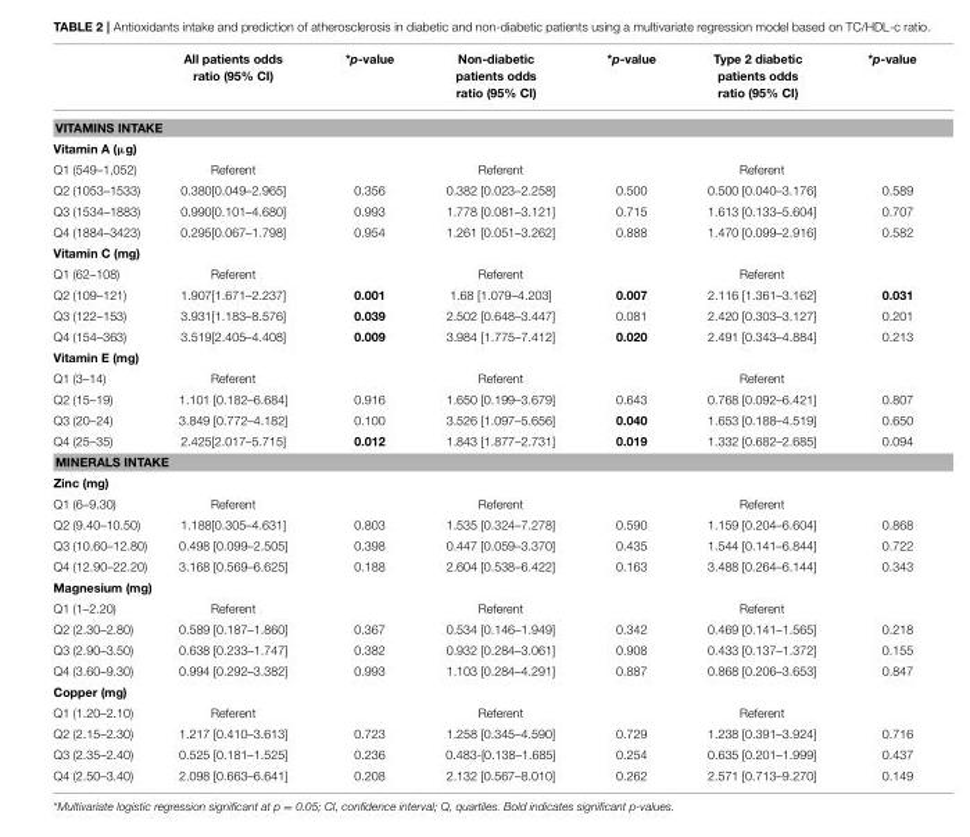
<table><thead><tr><td></td><td>All patients odds ratio (95% CI)</td><td>*p-value</td><td>Non-diabetic patients odds ratio (95% CI)</td><td>*p-value</td><td>Type 2 diabetic patients odds ratio (95% CI)</td><td>*p-value</td></tr></thead><tbody><tr><td colspan="7">VITAMINS INTAKE</td></tr><tr><td colspan="7">Vitamin A (µg)</td></tr><tr><td>Q1 (549–1,052)</td><td>Referent</td><td></td><td>Referent</td><td></td><td>Referent</td><td></td></tr><tr><td>Q2 (1053–1533)</td><td>0.380[0.049–2.965]</td><td>0.356</td><td>0.382 [0.023–2.258]</td><td>0.500</td><td>0.500 [0.040–3.176]</td><td>0.589</td></tr><tr><td>Q3 (1534–1883)</td><td>0.990[0.101–4.680]</td><td>0.993</td><td>1.778 [0.081–3.121]</td><td>0.715</td><td>1.613 [0.133–5.604]</td><td>0.707</td></tr><tr><td>Q4 (1884–3423)</td><td>0.295[0.067–1.798]</td><td>0.954</td><td>1.261 [0.051–3.262]</td><td>0.888</td><td>1.470 [0.099–2.916]</td><td>0.582</td></tr><tr><td colspan="7">Vitamin C (mg)</td></tr><tr><td>Q1 (62–108)</td><td>Referent</td><td></td><td>Referent</td><td></td><td>Referent</td><td></td></tr><tr><td>Q2 (109–121)</td><td>1.907[1.671–2.237]</td><td>0.001</td><td>1.68 [1.079–4.203]</td><td>0.007</td><td>2.116 [1.361–3.162]</td><td>0.031</td></tr><tr><td>Q3 (122–153)</td><td>3.931[1.183–8.576]</td><td>0.039</td><td>2.502 [0.648–3.447]</td><td>0.081</td><td>2.420 [0.303–3.127]</td><td>0.201</td></tr><tr><td>Q4 (154–363)</td><td>3.519[2.405–4.408]</td><td>0.009</td><td>3.984 [1.775–7.412]</td><td>0.020</td><td>2.491 [0.343–4.884]</td><td>0.213</td></tr><tr><td colspan="7">Vitamin E (mg)</td></tr><tr><td>Q1 (3–14)</td><td>Referent</td><td></td><td>Referent</td><td></td><td>Referent</td><td></td></tr><tr><td>Q2 (15–19)</td><td>1.101 [0.182–6.684]</td><td>0.916</td><td>1.650 [0.199–3.679]</td><td>0.643</td><td>0.768 [0.092–6.421]</td><td>0.807</td></tr><tr><td>Q3 (20–24)</td><td>3.849 [0.772–4.182]</td><td>0.100</td><td>3.526 [1.097–5.656]</td><td>0.040</td><td>1.653 [0.188–4.519]</td><td>0.650</td></tr><tr><td>Q4 (25–35)</td><td>2.425[2.017–5.715]</td><td>0.012</td><td>1.843 [1.877–2.731]</td><td>0.019</td><td>1.332 [0.682–2.685]</td><td>0.094</td></tr><tr><td colspan="7">MINERALS INTAKE</td></tr><tr><td colspan="7">Zinc (mg)</td></tr><tr><td>Q1 (6–9.30)</td><td>Referent</td><td></td><td>Referent</td><td></td><td>Referent</td><td></td></tr><tr><td>Q2 (9.40–10.50)</td><td>1.188[0.305–4.631]</td><td>0.803</td><td>1.535 [0.324–7.278]</td><td>0.590</td><td>1.159 [0.204–6.604]</td><td>0.868</td></tr><tr><td>Q3 (10.60–12.80)</td><td>0.498 [0.099–2.505]</td><td>0.398</td><td>0.447 [0.059–3.370]</td><td>0.435</td><td>1.544 [0.141–6.844]</td><td>0.722</td></tr><tr><td>Q4 (12.90–22.20)</td><td>3.168 [0.569–6.625]</td><td>0.188</td><td>2.604 [0.538–6.422]</td><td>0.163</td><td>3.488 [0.264–6.144]</td><td>0.343</td></tr><tr><td colspan="7">Magnesium (mg)</td></tr><tr><td>Q1 (1–2.20)</td><td>Referent</td><td></td><td>Referent</td><td></td><td>Referent</td><td></td></tr><tr><td>Q2 (2.30–2.80)</td><td>0.589 [0.187–1.860]</td><td>0.367</td><td>0.534 [0.146–1.949]</td><td>0.342</td><td>0.469 [0.141–1.565]</td><td>0.218</td></tr><tr><td>Q3 (2.90–3.50)</td><td>0.638 [0.233–1.747]</td><td>0.382</td><td>0.932 [0.284–3.061]</td><td>0.908</td><td>0.433 [0.137–1.372]</td><td>0.155</td></tr><tr><td>Q4 (3.60–9.30)</td><td>0.994 [0.292–3.382]</td><td>0.993</td><td>1.103 [0.284–4.291]</td><td>0.887</td><td>0.868 [0.206–3.653]</td><td>0.847</td></tr><tr><td colspan="7">Copper (mg)</td></tr><tr><td>Q1 (1.20–2.10)</td><td>Referent</td><td></td><td>Referent</td><td></td><td>Referent</td><td></td></tr><tr><td>Q2 (2.15–2.30)</td><td>1.217 [0.410–3.613]</td><td>0.723</td><td>1.258 [0.345–4.590]</td><td>0.729</td><td>1.238 [0.391–3.924]</td><td>0.716</td></tr><tr><td>Q3 (2.35–2.40)</td><td>0.525 [0.181–1.525]</td><td>0.236</td><td>0.483-[0.138–1.685]</td><td>0.254</td><td>0.635 [0.201–1.999]</td><td>0.437</td></tr><tr><td>Q4 (2.50–3.40)</td><td>2.098 [0.663–6.641]</td><td>0.208</td><td>2.132 [0.567–8.010]</td><td>0.262</td><td>2.571 [0.713–9.270]</td><td>0.149</td></tr></tbody></table>